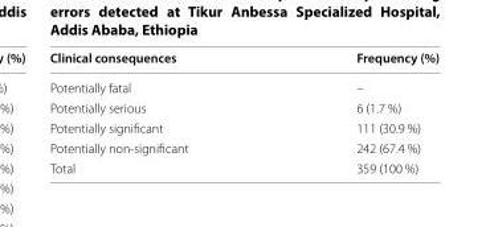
<table><thead><tr><td>Clinical consequences</td><td>Frequency (%)</td></tr></thead><tbody><tr><td>Potentially fatal</td><td>–</td></tr><tr><td>Potentially serious</td><td>6 (1.7 %)</td></tr><tr><td>Potentially significant</td><td>111 (30.9 %)</td></tr><tr><td>Potentially non-significant</td><td>242 (67.4 %)</td></tr><tr><td>Total</td><td>359 (100 %)</td></tr></tbody></table>